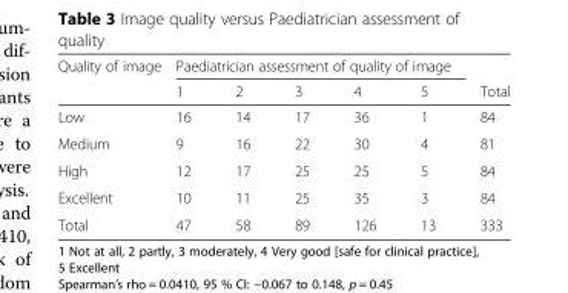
<table><thead><tr><td rowspan="2">Quality of image</td><td colspan="5">Paediatrician assessment of quality of image</td><td rowspan="2">Total</td></tr><tr><td>1</td><td>2</td><td>3</td><td>4</td><td>5</td></tr></thead><tbody><tr><td>Low</td><td>16</td><td>14</td><td>17</td><td>36</td><td>1</td><td>84</td></tr><tr><td>Medium</td><td>9</td><td>16</td><td>22</td><td>30</td><td>4</td><td>81</td></tr><tr><td>High</td><td>12</td><td>17</td><td>25</td><td>25</td><td>5</td><td>84</td></tr><tr><td>Excellent</td><td>10</td><td>11</td><td>25</td><td>35</td><td>3</td><td>84</td></tr><tr><td>Total</td><td>47</td><td>58</td><td>89</td><td>126</td><td>13</td><td>333</td></tr></tbody></table>